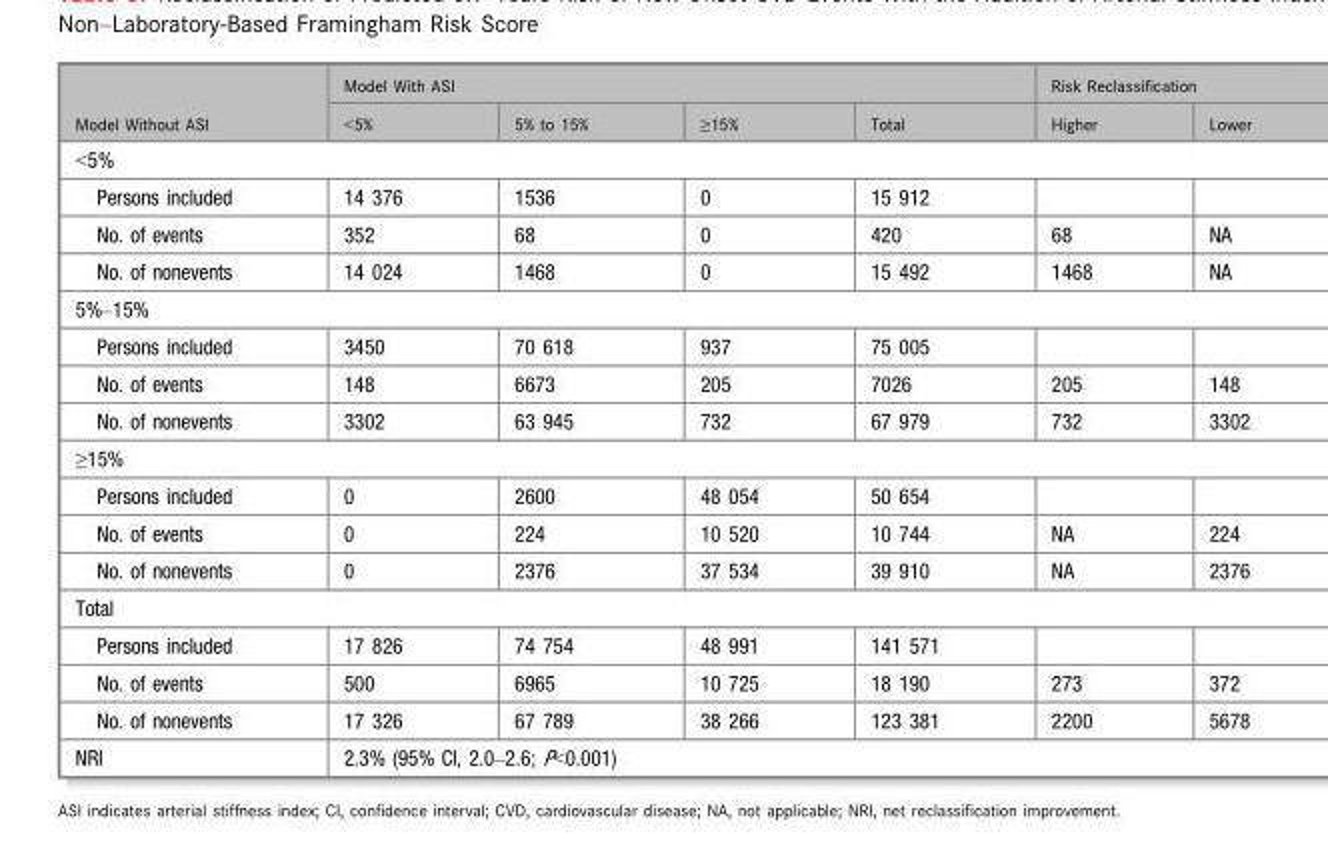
<table><thead><tr><td rowspan="2">Model Without ASI</td><td colspan="4">Model With ASI</td><td colspan="2">Risk Reclassification</td></tr><tr><td>&lt;5%</td><td>5% to 15%</td><td>≥15%</td><td>Total</td><td>Higher</td><td>Lower</td></tr></thead><tbody><tr><td colspan="7">&lt;5%</td></tr><tr><td>Persons included</td><td>14 376</td><td>1536</td><td>0</td><td>15 912</td><td></td><td></td></tr><tr><td>No. of events</td><td>352</td><td>68</td><td>0</td><td>420</td><td>68</td><td>NA</td></tr><tr><td>No. of nonevents</td><td>14 024</td><td>1468</td><td>0</td><td>15 492</td><td>1468</td><td>NA</td></tr><tr><td colspan="7">5%–15%</td></tr><tr><td>Persons included</td><td>3450</td><td>70 618</td><td>937</td><td>75 005</td><td></td><td></td></tr><tr><td>No. of events</td><td>148</td><td>6673</td><td>205</td><td>7026</td><td>205</td><td>148</td></tr><tr><td>No. of nonevents</td><td>3302</td><td>63 945</td><td>732</td><td>67 979</td><td>732</td><td>3302</td></tr><tr><td colspan="7">≥15%</td></tr><tr><td>Persons included</td><td>0</td><td>2600</td><td>48 054</td><td>50 654</td><td></td><td></td></tr><tr><td>No. of events</td><td>0</td><td>224</td><td>10 520</td><td>10 744</td><td>NA</td><td>224</td></tr><tr><td>No. of nonevents</td><td>0</td><td>2376</td><td>37 534</td><td>39 910</td><td>NA</td><td>2376</td></tr><tr><td colspan="7">Total</td></tr><tr><td>Persons included</td><td>17 826</td><td>74 754</td><td>48 991</td><td>141 571</td><td></td><td></td></tr><tr><td>No. of events</td><td>500</td><td>6965</td><td>10 725</td><td>18 190</td><td>273</td><td>372</td></tr><tr><td>No. of nonevents</td><td>17 326</td><td>67 789</td><td>38 266</td><td>123 381</td><td>2200</td><td>5678</td></tr><tr><td>NRI</td><td colspan="6">2.3% (95% CI, 2.0–2.6; P&lt;0.001)</td></tr></tbody></table>